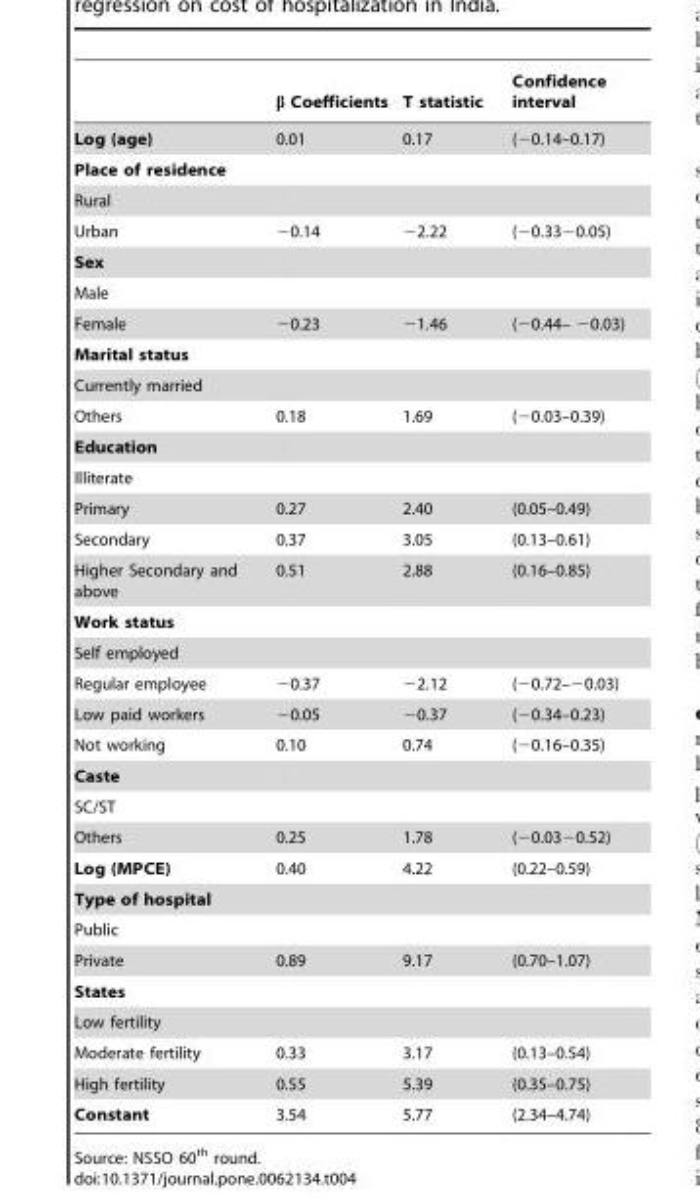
<table><thead><tr><td></td><td>β Coefficients</td><td>T statistic</td><td>Confidence interval</td></tr></thead><tbody><tr><td>Log (age)</td><td>0.01</td><td>0.17</td><td>(−0.14–0.17)</td></tr><tr><td colspan="4">Place of residence</td></tr><tr><td colspan="4">Rural</td></tr><tr><td>Urban</td><td>−0.14</td><td>−2.22</td><td>(−0.33−0.05)</td></tr><tr><td colspan="4">Sex</td></tr><tr><td colspan="4">Male</td></tr><tr><td>Female</td><td>−0.23</td><td>−1.46</td><td>(−0.44– −0.03)</td></tr><tr><td colspan="4">Marital status</td></tr><tr><td colspan="4">Currently married</td></tr><tr><td>Others</td><td>0.18</td><td>1.69</td><td>(−0.03–0.39)</td></tr><tr><td colspan="4">Education</td></tr><tr><td colspan="4">Illiterate</td></tr><tr><td>Primary</td><td>0.27</td><td>2.40</td><td>(0.05–0.49)</td></tr><tr><td>Secondary</td><td>0.37</td><td>3.05</td><td>(0.13–0.61)</td></tr><tr><td>Higher Secondary and above</td><td>0.51</td><td>2.88</td><td>(0.16–0.85)</td></tr><tr><td colspan="4">Work status</td></tr><tr><td colspan="4">Self employed</td></tr><tr><td>Regular employee</td><td>−0.37</td><td>−2.12</td><td>(−0.72–−0.03)</td></tr><tr><td>Low paid workers</td><td>−0.05</td><td>−0.37</td><td>(−0.34–0.23)</td></tr><tr><td>Not working</td><td>0.10</td><td>0.74</td><td>(−0.16–0.35)</td></tr><tr><td colspan="4">Caste</td></tr><tr><td colspan="4">SC/ST</td></tr><tr><td>Others</td><td>0.25</td><td>1.78</td><td>(−0.03−0.52)</td></tr><tr><td>Log (MPCE)</td><td>0.40</td><td>4.22</td><td>(0.22–0.59)</td></tr><tr><td colspan="4">Type of hospital</td></tr><tr><td colspan="4">Public</td></tr><tr><td>Private</td><td>0.89</td><td>9.17</td><td>(0.70–1.07)</td></tr><tr><td colspan="4">States</td></tr><tr><td colspan="4">Low fertility</td></tr><tr><td>Moderate fertility</td><td>0.33</td><td>3.17</td><td>(0.13–0.54)</td></tr><tr><td>High fertility</td><td>0.55</td><td>5.39</td><td>(0.35–0.75)</td></tr><tr><td>Constant</td><td>3.54</td><td>5.77</td><td>(2.34–4.74)</td></tr></tbody></table>